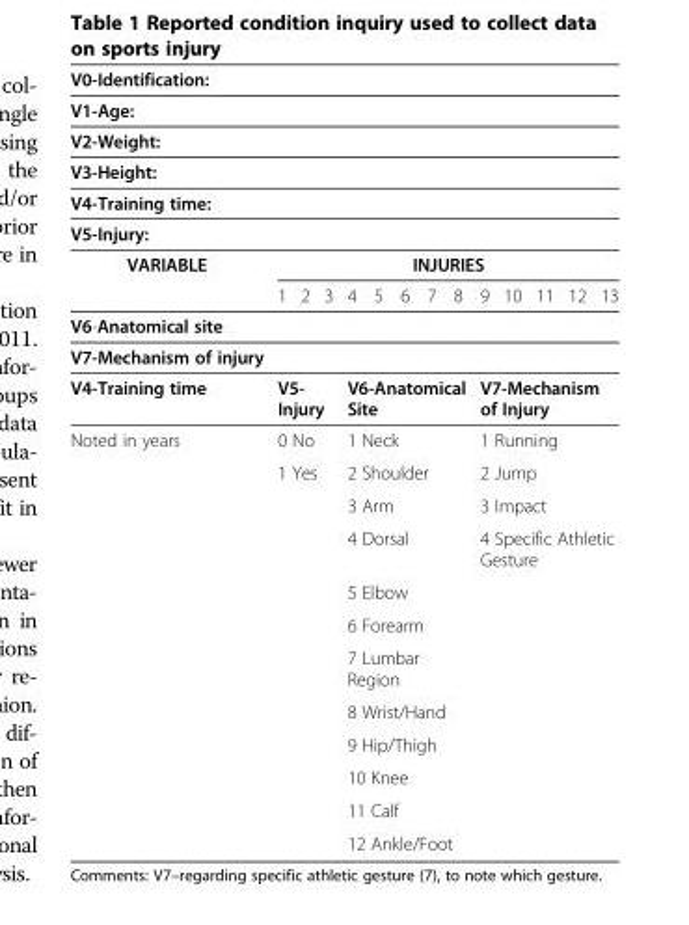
<table><thead><tr><td rowspan="6" colspan="14">V0-Identification: V1-Age: V2-Weight: V3-Height: V4-Training time: V5-Injury:</td></tr><tr></tr><tr></tr><tr></tr><tr></tr><tr></tr><tr><td rowspan="2">VARIABLE</td><td colspan="13">INJURIES</td></tr><tr><td>1</td><td>2</td><td>3</td><td>4</td><td>5</td><td>6</td><td>7</td><td>8</td><td>9</td><td>10</td><td>11</td><td>12</td><td>13</td></tr></thead><tbody><tr><td colspan="14">V6-Anatomical site</td></tr><tr><td colspan="14">V7-Mechanism of injury</td></tr><tr><td>V4-Training time</td><td colspan="3">V5- Injury</td><td colspan="5">V6-Anatomical Site</td><td colspan="5">V7-Mechanism of Injury</td></tr><tr><td rowspan="11">Noted in years</td><td colspan="3">0 No</td><td colspan="5">1 Neck</td><td colspan="5">1 Running</td></tr><tr><td colspan="3">1 Yes</td><td colspan="5">2 Shoulder</td><td colspan="5">2 Jump</td></tr><tr><td rowspan="9" colspan="3"></td><td colspan="5">3 Arm</td><td colspan="5">3 Impact</td></tr><tr><td colspan="5">4 Dorsal</td><td colspan="5">4 Specific Athletic Gesture</td></tr><tr><td colspan="5">5 Elbow</td><td rowspan="7" colspan="5"></td></tr><tr><td colspan="5">6 Forearm</td></tr><tr><td colspan="5">7 Lumbar Region</td></tr><tr><td colspan="5">8 Wrist/Hand</td></tr><tr><td colspan="5">9 Hip/Thigh</td></tr><tr><td colspan="5">10 Knee</td></tr><tr><td colspan="5">11 Calf</td></tr><tr><td colspan="4"></td><td colspan="5">12 Ankle/Foot</td><td colspan="5"></td></tr></tbody></table>